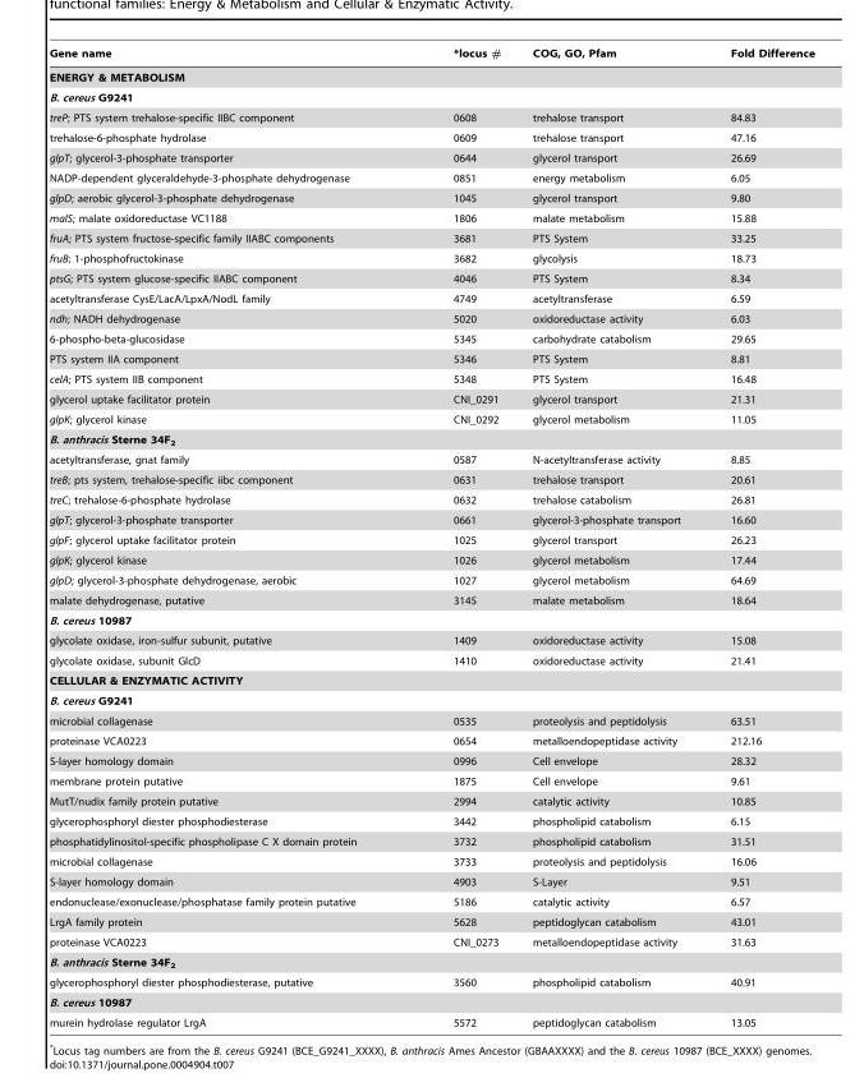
<table><thead><tr><td>Gene name</td><td>*locus #</td><td>COG, GO, Pfam</td><td>Fold Difference</td></tr></thead><tbody><tr><td colspan="4">ENERGY &amp; METABOLISM</td></tr><tr><td colspan="4">B. cereus G9241</td></tr><tr><td>treP; PTS system trehalose-specific IIBC component</td><td>0608</td><td>trehalose transport</td><td>84.83</td></tr><tr><td>trehalose-6-phosphate hydrolase</td><td>0609</td><td>trehalose transport</td><td>47.16</td></tr><tr><td>glpT; glycerol-3-phosphate transporter</td><td>0644</td><td>glycerol transport</td><td>26.69</td></tr><tr><td>NADP-dependent glyceraldehyde-3-phosphate dehydrogenase</td><td>0851</td><td>energy metabolism</td><td>6.05</td></tr><tr><td>glpD; aerobic glycerol-3-phosphate dehydrogenase</td><td>1045</td><td>glycerol transport</td><td>9.80</td></tr><tr><td>malS; malate oxidoreductase VC1188</td><td>1806</td><td>malate metabolism</td><td>15.88</td></tr><tr><td>fruA; PTS system fructose-specific family IIABC components</td><td>3681</td><td>PTS System</td><td>33.25</td></tr><tr><td>fruB; 1-phosphofructokinase</td><td>3682</td><td>glycolysis</td><td>18.73</td></tr><tr><td>ptsG; PTS system glucose-specific IIABC component</td><td>4046</td><td>PTS System</td><td>8.34</td></tr><tr><td>acetyltransferase CysE/LacA/LpxA/NodL family</td><td>4749</td><td>acetyltransferase</td><td>6.59</td></tr><tr><td>ndh; NADH dehydrogenase</td><td>5020</td><td>oxidoreductase activity</td><td>6.03</td></tr><tr><td>6-phospho-beta-glucosidase</td><td>5345</td><td>carbohydrate catabolism</td><td>29.65</td></tr><tr><td>PTS system IIA component</td><td>5346</td><td>PTS System</td><td>8.81</td></tr><tr><td>celA; PTS system IIB component</td><td>5348</td><td>PTS System</td><td>16.48</td></tr><tr><td>glycerol uptake facilitator protein</td><td>CNI_0291</td><td>glycerol transport</td><td>21.31</td></tr><tr><td>glpK; glycerol kinase</td><td>CNI_0292</td><td>glycerol metabolism</td><td>11.05</td></tr><tr><td colspan="4">B. anthracis Sterne 34F<sub>2</sub></td></tr><tr><td>acetyltransferase, gnat family</td><td>0587</td><td>N-acetyltransferase activity</td><td>8.85</td></tr><tr><td>treB; pts system, trehalose-specific iibc component</td><td>0631</td><td>trehalose transport</td><td>20.61</td></tr><tr><td>treC; trehalose-6-phosphate hydrolase</td><td>0632</td><td>trehalose catabolism</td><td>26.81</td></tr><tr><td>glpT; glycerol-3-phosphate transporter</td><td>0661</td><td>glycerol-3-phosphate transport</td><td>16.60</td></tr><tr><td>glpF; glycerol uptake facilitator protein</td><td>1025</td><td>glycerol transport</td><td>26.23</td></tr><tr><td>glpK; glycerol kinase</td><td>1026</td><td>glycerol metabolism</td><td>17.44</td></tr><tr><td>glpD; glycerol-3-phosphate dehydrogenase, aerobic</td><td>1027</td><td>glycerol metabolism</td><td>64.69</td></tr><tr><td>malate dehydrogenase, putative</td><td>3145</td><td>malate metabolism</td><td>18.64</td></tr><tr><td colspan="4">B. cereus 10987</td></tr><tr><td>glycolate oxidase, iron-sulfur subunit, putative</td><td>1409</td><td>oxidoreductase activity</td><td>15.08</td></tr><tr><td>glycolate oxidase, subunit GlcD</td><td>1410</td><td>oxidoreductase activity</td><td>21.41</td></tr><tr><td colspan="4">CELLULAR &amp; ENZYMATIC ACTIVITY</td></tr><tr><td colspan="4">B. cereus G9241</td></tr><tr><td>microbial collagenase</td><td>0535</td><td>proteolysis and peptidolysis</td><td>63.51</td></tr><tr><td>proteinase VCA0223</td><td>0654</td><td>metalloendopeptidase activity</td><td>212.16</td></tr><tr><td>S-layer homology domain</td><td>0996</td><td>Cell envelope</td><td>28.32</td></tr><tr><td>membrane protein putative</td><td>1875</td><td>Cell envelope</td><td>9.61</td></tr><tr><td>MutT/nudix family protein putative</td><td>2994</td><td>catalytic activity</td><td>10.85</td></tr><tr><td>glycerophosphoryl diester phosphodiesterase</td><td>3442</td><td>phospholipid catabolism</td><td>6.15</td></tr><tr><td>phosphatidylinositol-specific phospholipase C X domain protein</td><td>3732</td><td>phospholipid catabolism</td><td>31.51</td></tr><tr><td>microbial collagenase</td><td>3733</td><td>proteolysis and peptidolysis</td><td>16.06</td></tr><tr><td>S-layer homology domain</td><td>4903</td><td>S-Layer</td><td>9.51</td></tr><tr><td>endonuclease/exonuclease/phosphatase family protein putative</td><td>5186</td><td>catalytic activity</td><td>6.57</td></tr><tr><td>LrgA family protein</td><td>5628</td><td>peptidoglycan catabolism</td><td>43.01</td></tr><tr><td>proteinase VCA0223</td><td>CNI_0273</td><td>metalloendopeptidase activity</td><td>31.63</td></tr><tr><td colspan="4">B. anthracis Sterne 34F<sub>2</sub></td></tr><tr><td>glycerophosphoryl diester phosphodiesterase, putative</td><td>3560</td><td>phospholipid catabolism</td><td>40.91</td></tr><tr><td colspan="4">B. cereus 10987</td></tr><tr><td>murein hydrolase regulator LrgA</td><td>5572</td><td>peptidoglycan catabolism</td><td>13.05</td></tr></tbody></table>